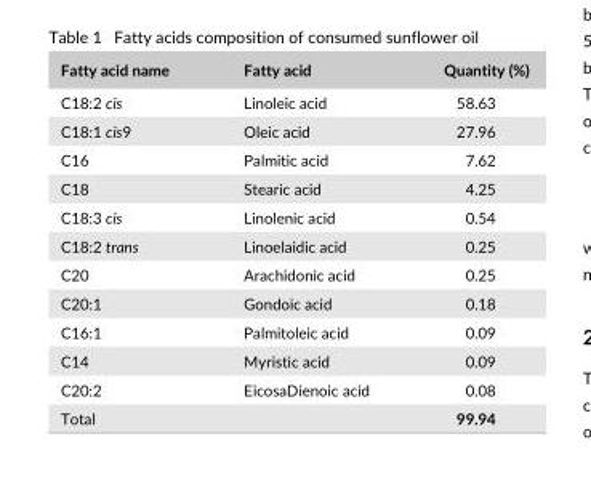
<table><thead><tr><td>Fatty acid name</td><td>Fatty acid</td><td>Quantity (%)</td></tr></thead><tbody><tr><td>C18:2 cis</td><td>Linoleic acid</td><td>58.63</td></tr><tr><td>C18:1 cis9</td><td>Oleic acid</td><td>27.96</td></tr><tr><td>C16</td><td>Palmitic acid</td><td>7.62</td></tr><tr><td>C18</td><td>Stearic acid</td><td>4.25</td></tr><tr><td>C18:3 cis</td><td>Linolenic acid</td><td>0.54</td></tr><tr><td>C18:2 trans</td><td>Linoelaidic acid</td><td>0.25</td></tr><tr><td>C20</td><td>Arachidonic acid</td><td>0.25</td></tr><tr><td>C20:1</td><td>Gondoic acid</td><td>0.18</td></tr><tr><td>C16:1</td><td>Palmitoleic acid</td><td>0.09</td></tr><tr><td>C14</td><td>Myristic acid</td><td>0.09</td></tr><tr><td>C20:2</td><td>EicosaDienoic acid</td><td>0.08</td></tr><tr><td>Total</td><td></td><td>99.94</td></tr></tbody></table>